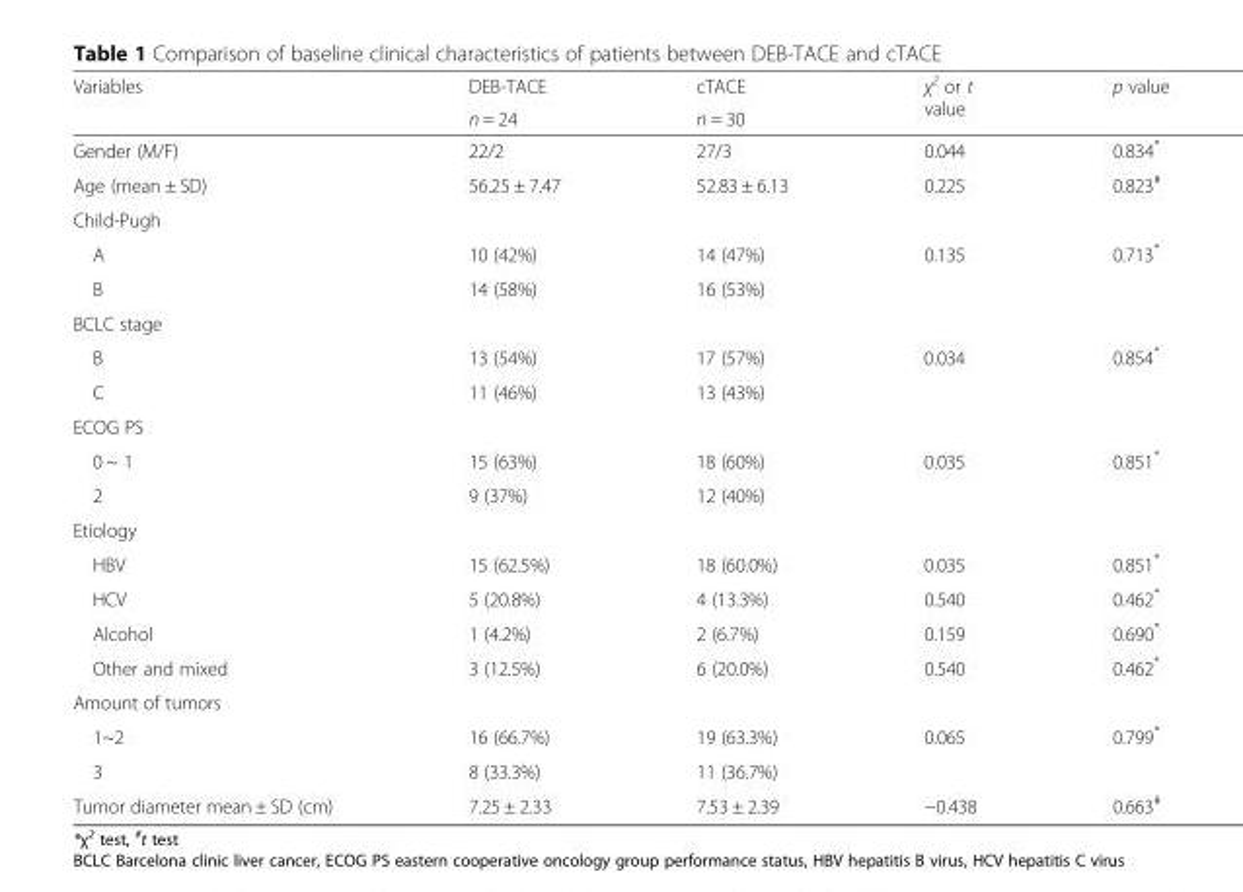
<table><thead><tr><td rowspan="2">Variables</td><td rowspan="2">DEB-TACE n = 24</td><td rowspan="2">cTACE n = 30</td><td rowspan="2">χ<sup>2</sup> or t value</td><td rowspan="2">p value</td></tr><tr></tr></thead><tbody><tr><td>Gender (M/F)</td><td>22/2</td><td>27/3</td><td>0.044</td><td>0.834*</td></tr><tr><td>Age (mean ± SD)</td><td>56.25 ± 7.47</td><td>52.83 ± 6.13</td><td>0.225</td><td>0.823<sup>#</sup></td></tr><tr><td colspan="5">Child-Pugh</td></tr><tr><td>A</td><td>10 (42%)</td><td>14 (47%)</td><td>0.135</td><td>0.713*</td></tr><tr><td>B</td><td>14 (58%)</td><td>16 (53%)</td><td></td><td></td></tr><tr><td colspan="5">BCLC stage</td></tr><tr><td>B</td><td>13 (54%)</td><td>17 (57%)</td><td>0.034</td><td>0.854*</td></tr><tr><td>C</td><td>11 (46%)</td><td>13 (43%)</td><td></td><td></td></tr><tr><td colspan="5">ECOG PS</td></tr><tr><td>0 ~ 1</td><td>15 (63%)</td><td>18 (60%)</td><td>0.035</td><td>0.851*</td></tr><tr><td>2</td><td>9 (37%)</td><td>12 (40%)</td><td></td><td></td></tr><tr><td colspan="5">Etiology</td></tr><tr><td>HBV</td><td>15 (62.5%)</td><td>18 (60.0%)</td><td>0.035</td><td>0.851*</td></tr><tr><td>HCV</td><td>5 (20.8%)</td><td>4 (13.3%)</td><td>0.540</td><td>0.462*</td></tr><tr><td>Alcohol</td><td>1 (4.2%)</td><td>2 (6.7%)</td><td>0.159</td><td>0.690*</td></tr><tr><td>Other and mixed</td><td>3 (12.5%)</td><td>6 (20.0%)</td><td>0.540</td><td>0.462*</td></tr><tr><td colspan="5">Amount of tumors</td></tr><tr><td>1~2</td><td>16 (66.7%)</td><td>19 (63.3%)</td><td>0.065</td><td>0.799*</td></tr><tr><td>3</td><td>8 (33.3%)</td><td>11 (36.7%)</td><td></td><td></td></tr><tr><td>Tumor diameter mean ± SD (cm)</td><td>7.25 ± 2.33</td><td>7.53 ± 2.39</td><td>−0.438</td><td>0.663<sup>#</sup></td></tr></tbody></table>